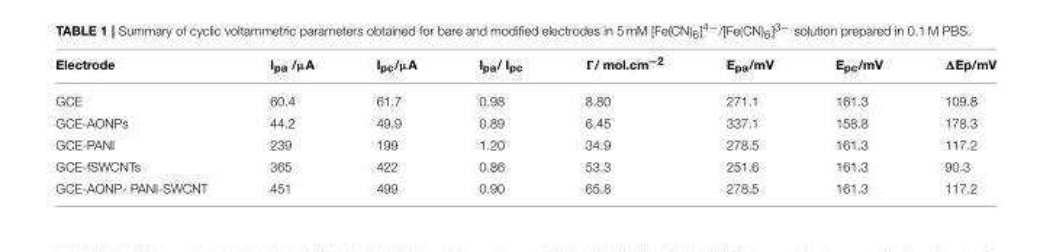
<table><thead><tr><td>Electrode</td><td>I<sub>pa</sub> /µA</td><td>I<sub>pc</sub>/µA</td><td>I<sub>pa</sub>/ I<sub>pc</sub></td><td>Ŵ/ mol.cm−2</td><td>E<sub>pa</sub>/mV</td><td>E<sub>pc</sub>/mV</td><td>ΔEp/mV</td></tr></thead><tbody><tr><td>GCE</td><td>60.4</td><td>61.7</td><td>0.98</td><td>8.80</td><td>271.1</td><td>161.3</td><td>109.8</td></tr><tr><td>GCE-AONPs</td><td>44.2</td><td>49.9</td><td>0.89</td><td>6.45</td><td>337.1</td><td>158.8</td><td>178.3</td></tr><tr><td>GCE-PANI</td><td>239</td><td>199</td><td>1.20</td><td>34.9</td><td>278.5</td><td>161.3</td><td>117.2</td></tr><tr><td>GCE-fSWCNTs</td><td>365</td><td>422</td><td>0.86</td><td>53.3</td><td>251.6</td><td>161.3</td><td>90.3</td></tr><tr><td>GCE-AONP- PANI-SWCNT</td><td>451</td><td>499</td><td>0.90</td><td>65.8</td><td>278.5</td><td>161.3</td><td>117.2</td></tr></tbody></table>